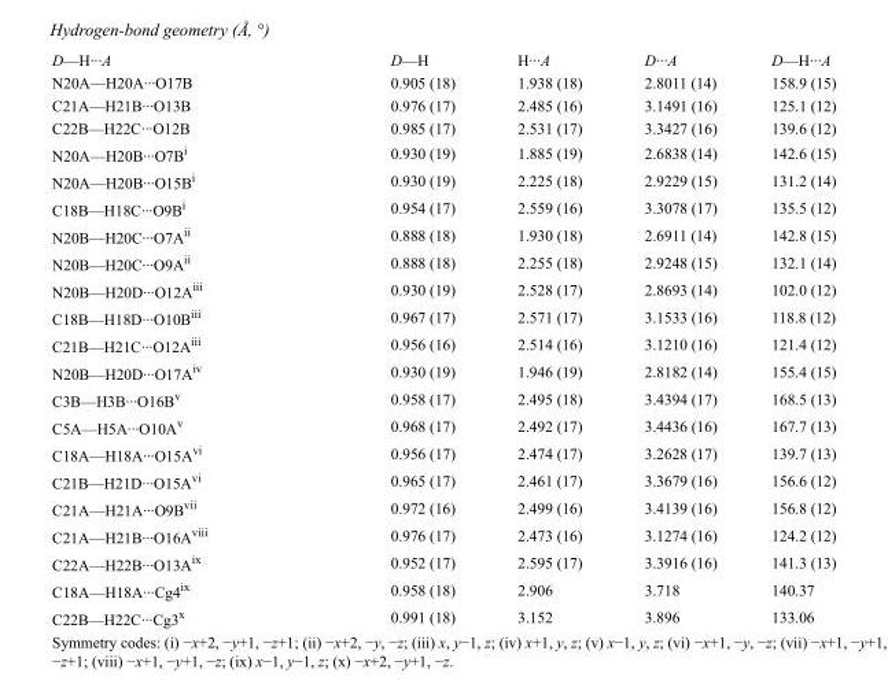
<table><tbody><tr><td>D—H···A</td><td>D—H</td><td>H···A</td><td>D···A</td><td>D—H···A</td></tr><tr><td>N20A—H20A···O17B</td><td>0.905 (18)</td><td>1.938 (18)</td><td>2.8011 (14)</td><td>158.9 (15)</td></tr><tr><td>C21A—H21B···O13B</td><td>0.976 (17)</td><td>2.485 (16)</td><td>3.1491 (16)</td><td>125.1 (12)</td></tr><tr><td>C22B—H22C···O12B</td><td>0.985 (17)</td><td>2.531 (17)</td><td>3.3427 (16)</td><td>139.6 (12)</td></tr><tr><td>N20A—H20B···O7B<sup>i</sup></td><td>0.930 (19)</td><td>1.885 (19)</td><td>2.6838 (14)</td><td>142.6 (15)</td></tr><tr><td>N20A—H20B···O15B<sup>i</sup></td><td>0.930 (19)</td><td>2.225 (18)</td><td>2.9229 (15)</td><td>131.2 (14)</td></tr><tr><td>C18B—H18C···O9B<sup>i</sup></td><td>0.954 (17)</td><td>2.559 (16)</td><td>3.3078 (17)</td><td>135.5 (12)</td></tr><tr><td>N20B—H20C···O7A<sup>ii</sup></td><td>0.888 (18)</td><td>1.930 (18)</td><td>2.6911 (14)</td><td>142.8 (15)</td></tr><tr><td>N20B—H20C···O9A<sup>ii</sup></td><td>0.888 (18)</td><td>2.255 (18)</td><td>2.9248 (15)</td><td>132.1 (14)</td></tr><tr><td>N20B—H20D···O12A<sup>iii</sup></td><td>0.930 (19)</td><td>2.528 (17)</td><td>2.8693 (14)</td><td>102.0 (12)</td></tr><tr><td>C18B—H18D···O10B<sup>iii</sup></td><td>0.967 (17)</td><td>2.571 (17)</td><td>3.1533 (16)</td><td>118.8 (12)</td></tr><tr><td>C21B—H21C···O12A<sup>iii</sup></td><td>0.956 (16)</td><td>2.514 (16)</td><td>3.1210 (16)</td><td>121.4 (12)</td></tr><tr><td>N20B—H20D···O17A<sup>iv</sup></td><td>0.930 (19)</td><td>1.946 (19)</td><td>2.8182 (14)</td><td>155.4 (15)</td></tr><tr><td>C3B—H3B···O16B<sup>v</sup></td><td>0.958 (17)</td><td>2.495 (18)</td><td>3.4394 (17)</td><td>168.5 (13)</td></tr><tr><td>C5A—H5A···O10A<sup>v</sup></td><td>0.968 (17)</td><td>2.492 (17)</td><td>3.4436 (16)</td><td>167.7 (13)</td></tr><tr><td>C18A—H18A···O15A<sup>vi</sup></td><td>0.956 (17)</td><td>2.474 (17)</td><td>3.2628 (17)</td><td>139.7 (13)</td></tr><tr><td>C21B—H21D···O15A<sup>vi</sup></td><td>0.965 (17)</td><td>2.461 (17)</td><td>3.3679 (16)</td><td>156.6 (12)</td></tr><tr><td>C21A—H21A···O9B<sup>vii</sup></td><td>0.972 (16)</td><td>2.499 (16)</td><td>3.4139 (16)</td><td>156.8 (12)</td></tr><tr><td>C21A—H21B···O16A<sup>viii</sup></td><td>0.976 (17)</td><td>2.473 (16)</td><td>3.1274 (16)</td><td>124.2 (12)</td></tr><tr><td>C22A—H22B···O13A<sup>ix</sup></td><td>0.952 (17)</td><td>2.595 (17)</td><td>3.3916 (16)</td><td>141.3 (13)</td></tr><tr><td>C18A—H18A···Cg4<sup>ix</sup></td><td>0.958 (18)</td><td>2.906</td><td>3.718</td><td>140.37</td></tr><tr><td>C22B—H22C···Cg3<sup>x</sup></td><td>0.991 (18)</td><td>3.152</td><td>3.896</td><td>133.06</td></tr></tbody></table>